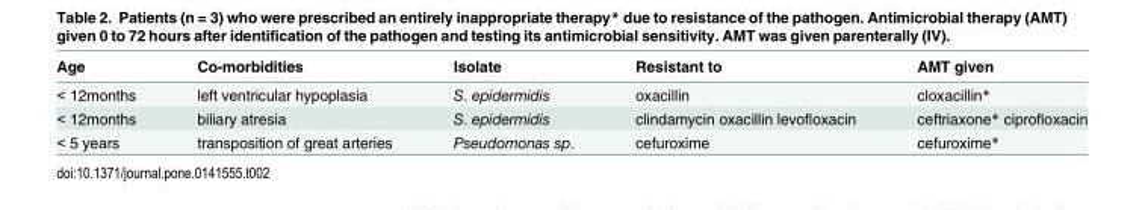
<table><thead><tr><td>Age</td><td>Co-morbidities</td><td>Isolate</td><td>Resistant to</td><td>AMT given</td></tr></thead><tbody><tr><td>&lt; 12months</td><td>left ventricular hypoplasia</td><td>S. epidermidis</td><td>oxacillin</td><td>cloxacillin*</td></tr><tr><td>&lt; 12months</td><td>biliary atresia</td><td>S. epidermidis</td><td>clindamycin oxacillin levofloxacin</td><td>ceftriaxone* ciprofloxacin</td></tr><tr><td>&lt; 5 years</td><td>transposition of great arteries</td><td>Pseudomonas sp.</td><td>cefuroxime</td><td>cefuroxime*</td></tr></tbody></table>